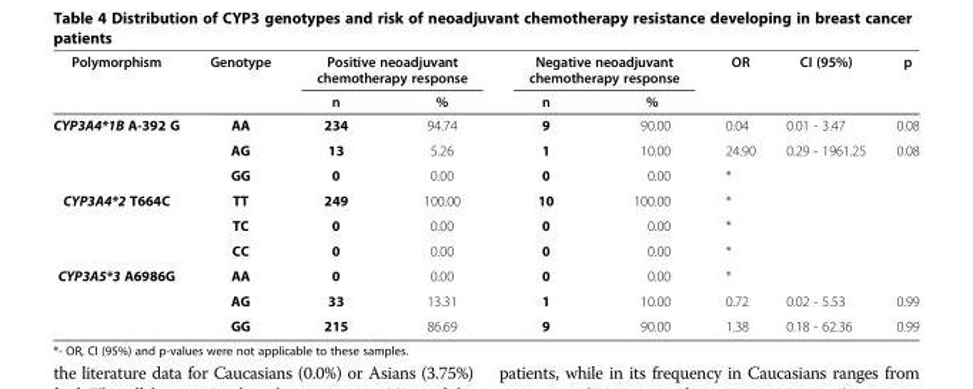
<table><thead><tr><td rowspan="2">Polymorphism</td><td rowspan="2">Genotype</td><td colspan="2">Positive neoadjuvant chemotherapy response</td><td colspan="2">Negative neoadjuvant chemotherapy response</td><td rowspan="2">OR</td><td rowspan="2">CI (95%)</td><td rowspan="2">p</td></tr><tr><td>n</td><td>%</td><td>n</td><td>%</td></tr></thead><tbody><tr><td rowspan="3">CYP3A4*1B A-392 G</td><td>AA</td><td>234</td><td>94.74</td><td>9</td><td>90.00</td><td>0.04</td><td>0.01 - 3.47</td><td>0.08</td></tr><tr><td>AG</td><td>13</td><td>5.26</td><td>1</td><td>10.00</td><td>24.90</td><td>0.29 - 1961.25</td><td>0.08</td></tr><tr><td>GG</td><td>0</td><td>0.00</td><td>0</td><td>0.00</td><td>*</td><td></td><td></td></tr><tr><td rowspan="3">CYP3A4*2 T664C</td><td>TT</td><td>249</td><td>100.00</td><td>10</td><td>100.00</td><td>*</td><td></td><td></td></tr><tr><td>TC</td><td>0</td><td>0.00</td><td>0</td><td>0.00</td><td>*</td><td></td><td></td></tr><tr><td>CC</td><td>0</td><td>0.00</td><td>0</td><td>0.00</td><td>*</td><td></td><td></td></tr><tr><td rowspan="3">CYP3A5*3 A6986G</td><td>AA</td><td>0</td><td>0.00</td><td>0</td><td>0.00</td><td>*</td><td></td><td></td></tr><tr><td>AG</td><td>33</td><td>13.31</td><td>1</td><td>10.00</td><td>0.72</td><td>0.02 - 5.53</td><td>0.99</td></tr><tr><td>GG</td><td>215</td><td>86.69</td><td>9</td><td>90.00</td><td>1.38</td><td>0.18 - 62.36</td><td>0.99</td></tr></tbody></table>